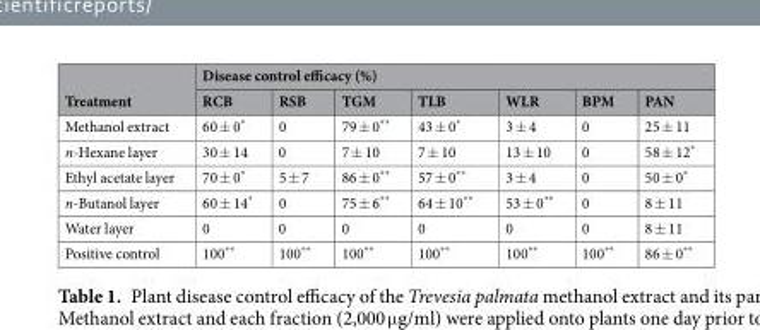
<table><thead><tr><td rowspan="2">Treatment</td><td colspan="7">Disease control efficacy (%)</td></tr><tr><td>RCB</td><td>RSB</td><td>TGM</td><td>TLB</td><td>WLR</td><td>BPM</td><td>PAN</td></tr></thead><tbody><tr><td>Methanol extract</td><td>60 ± 0*</td><td>0</td><td>79 ± 0**</td><td>43 ± 0*</td><td>3 ± 4</td><td>0</td><td>25 ± 11</td></tr><tr><td>n-Hexane layer</td><td>30 ± 14</td><td>0</td><td>7 ± 10</td><td>7 ± 10</td><td>13 ± 10</td><td>0</td><td>58 ± 12*</td></tr><tr><td>Ethyl acetate layer</td><td>70 ± 0*</td><td>5 ± 7</td><td>86 ± 0**</td><td>57 ± 0**</td><td>3 ± 4</td><td>0</td><td>50 ± 0*</td></tr><tr><td>n-Butanol layer</td><td>60 ± 14*</td><td>0</td><td>75 ± 6**</td><td>64 ± 10**</td><td>53 ± 0**</td><td>0</td><td>8 ± 11</td></tr><tr><td>Water layer</td><td>0</td><td>0</td><td>0</td><td>0</td><td>0</td><td>0</td><td>8 ± 11</td></tr><tr><td>Positive control</td><td>100**</td><td>100**</td><td>100**</td><td>100**</td><td>100**</td><td>100**</td><td>86 ± 0**</td></tr></tbody></table>